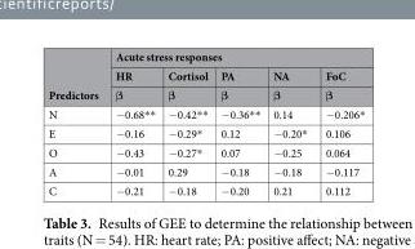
<table><thead><tr><td rowspan="3">Predictors</td><td colspan="5">Acute stress responses</td></tr><tr><td rowspan="2">HR β</td><td rowspan="2">Cortisol β</td><td rowspan="2">PA β</td><td rowspan="2">NA β</td><td rowspan="2">FoC β</td></tr><tr></tr></thead><tbody><tr><td>N</td><td>−0.68**</td><td>−0.42**</td><td>−0.36**</td><td>0.14</td><td>−0.206*</td></tr><tr><td>E</td><td>−0.16</td><td>−0.29*</td><td>0.12</td><td>−0.20*</td><td>0.106</td></tr><tr><td>O</td><td>−0.43</td><td>−0.27*</td><td>0.07</td><td>−0.25</td><td>0.064</td></tr><tr><td>A</td><td>−0.01</td><td>0.29</td><td>−0.18</td><td>−0.18</td><td>−0.117</td></tr><tr><td>C</td><td>−0.21</td><td>−0.18</td><td>−0.20</td><td>0.21</td><td>0.112</td></tr></tbody></table>